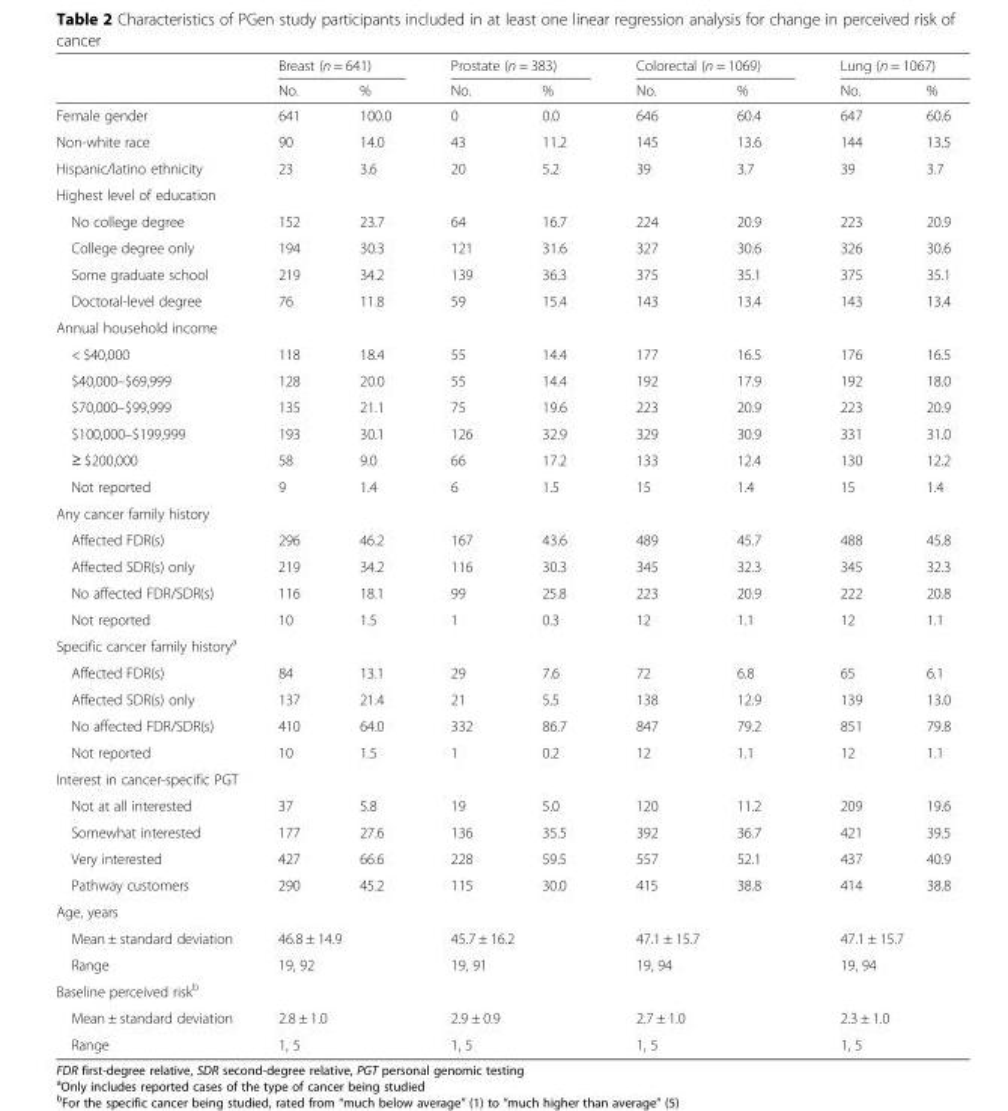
<table><thead><tr><td rowspan="2"></td><td colspan="2">Breast (n = 641)</td><td colspan="2">Prostate (n = 383)</td><td colspan="2">Colorectal (n = 1069)</td><td colspan="2">Lung (n = 1067)</td></tr><tr><td>No.</td><td>%</td><td>No.</td><td>%</td><td>No.</td><td>%</td><td>No.</td><td>%</td></tr></thead><tbody><tr><td>Female gender</td><td>641</td><td>100.0</td><td>0</td><td>0.0</td><td>646</td><td>60.4</td><td>647</td><td>60.6</td></tr><tr><td>Non-white race</td><td>90</td><td>14.0</td><td>43</td><td>11.2</td><td>145</td><td>13.6</td><td>144</td><td>13.5</td></tr><tr><td>Hispanic/latino ethnicity</td><td>23</td><td>3.6</td><td>20</td><td>5.2</td><td>39</td><td>3.7</td><td>39</td><td>3.7</td></tr><tr><td colspan="9">Highest level of education</td></tr><tr><td>No college degree</td><td>152</td><td>23.7</td><td>64</td><td>16.7</td><td>224</td><td>20.9</td><td>223</td><td>20.9</td></tr><tr><td>College degree only</td><td>194</td><td>30.3</td><td>121</td><td>31.6</td><td>327</td><td>30.6</td><td>326</td><td>30.6</td></tr><tr><td>Some graduate school</td><td>219</td><td>34.2</td><td>139</td><td>36.3</td><td>375</td><td>35.1</td><td>375</td><td>35.1</td></tr><tr><td>Doctoral-level degree</td><td>76</td><td>11.8</td><td>59</td><td>15.4</td><td>143</td><td>13.4</td><td>143</td><td>13.4</td></tr><tr><td colspan="9">Annual household income</td></tr><tr><td>&lt; $40,000</td><td>118</td><td>18.4</td><td>55</td><td>14.4</td><td>177</td><td>16.5</td><td>176</td><td>16.5</td></tr><tr><td>$40,000–$69,999</td><td>128</td><td>20.0</td><td>55</td><td>14.4</td><td>192</td><td>17.9</td><td>192</td><td>18.0</td></tr><tr><td>$70,000–$99,999</td><td>135</td><td>21.1</td><td>75</td><td>19.6</td><td>223</td><td>20.9</td><td>223</td><td>20.9</td></tr><tr><td>$100,000–$199,999</td><td>193</td><td>30.1</td><td>126</td><td>32.9</td><td>329</td><td>30.9</td><td>331</td><td>31.0</td></tr><tr><td>≥ $200,000</td><td>58</td><td>9.0</td><td>66</td><td>17.2</td><td>133</td><td>12.4</td><td>130</td><td>12.2</td></tr><tr><td>Not reported</td><td>9</td><td>1.4</td><td>6</td><td>1.5</td><td>15</td><td>1.4</td><td>15</td><td>1.4</td></tr><tr><td colspan="9">Any cancer family history</td></tr><tr><td>Affected FDR(s)</td><td>296</td><td>46.2</td><td>167</td><td>43.6</td><td>489</td><td>45.7</td><td>488</td><td>45.8</td></tr><tr><td>Affected SDR(s) only</td><td>219</td><td>34.2</td><td>116</td><td>30.3</td><td>345</td><td>32.3</td><td>345</td><td>32.3</td></tr><tr><td>No affected FDR/SDR(s)</td><td>116</td><td>18.1</td><td>99</td><td>25.8</td><td>223</td><td>20.9</td><td>222</td><td>20.8</td></tr><tr><td>Not reported</td><td>10</td><td>1.5</td><td>1</td><td>0.3</td><td>12</td><td>1.1</td><td>12</td><td>1.1</td></tr><tr><td colspan="9">Specific cancer family history<sup>a</sup></td></tr><tr><td>Affected FDR(s)</td><td>84</td><td>13.1</td><td>29</td><td>7.6</td><td>72</td><td>6.8</td><td>65</td><td>6.1</td></tr><tr><td>Affected SDR(s) only</td><td>137</td><td>21.4</td><td>21</td><td>5.5</td><td>138</td><td>12.9</td><td>139</td><td>13.0</td></tr><tr><td>No affected FDR/SDR(s)</td><td>410</td><td>64.0</td><td>332</td><td>86.7</td><td>847</td><td>79.2</td><td>851</td><td>79.8</td></tr><tr><td>Not reported</td><td>10</td><td>1.5</td><td>1</td><td>0.2</td><td>12</td><td>1.1</td><td>12</td><td>1.1</td></tr><tr><td colspan="9">Interest in cancer-specific PGT</td></tr><tr><td>Not at all interested</td><td>37</td><td>5.8</td><td>19</td><td>5.0</td><td>120</td><td>11.2</td><td>209</td><td>19.6</td></tr><tr><td>Somewhat interested</td><td>177</td><td>27.6</td><td>136</td><td>35.5</td><td>392</td><td>36.7</td><td>421</td><td>39.5</td></tr><tr><td>Very interested</td><td>427</td><td>66.6</td><td>228</td><td>59.5</td><td>557</td><td>52.1</td><td>437</td><td>40.9</td></tr><tr><td>Pathway customers</td><td>290</td><td>45.2</td><td>115</td><td>30.0</td><td>415</td><td>38.8</td><td>414</td><td>38.8</td></tr><tr><td colspan="9">Age, years</td></tr><tr><td>Mean ± standard deviation</td><td colspan="2">46.8 ± 14.9</td><td colspan="2">45.7 ± 16.2</td><td colspan="2">47.1 ± 15.7</td><td colspan="2">47.1 ± 15.7</td></tr><tr><td>Range</td><td colspan="2">19, 92</td><td colspan="2">19, 91</td><td colspan="2">19, 94</td><td colspan="2">19, 94</td></tr><tr><td colspan="9">Baseline perceived risk<sup>b</sup></td></tr><tr><td>Mean ± standard deviation</td><td colspan="2">2.8 ± 1.0</td><td colspan="2">2.9 ± 0.9</td><td colspan="2">2.7 ± 1.0</td><td colspan="2">2.3 ± 1.0</td></tr><tr><td>Range</td><td colspan="2">1, 5</td><td colspan="2">1, 5</td><td colspan="2">1, 5</td><td colspan="2">1, 5</td></tr></tbody></table>